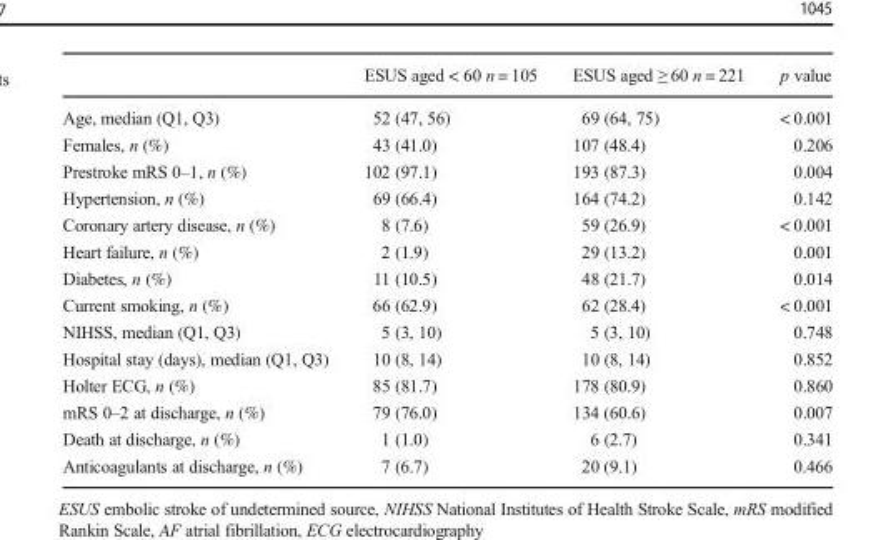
<table><thead><tr><td></td><td>ESUS aged &lt; 60 n = 105</td><td>ESUS aged ≥ 60 n = 221</td><td>p value</td></tr></thead><tbody><tr><td>Age, median (Q1, Q3)</td><td>52 (47, 56)</td><td>69 (64, 75)</td><td>&lt; 0.001</td></tr><tr><td>Females, n (%)</td><td>43 (41.0)</td><td>107 (48.4)</td><td>0.206</td></tr><tr><td>Prestroke mRS 0–1, n (%)</td><td>102 (97.1)</td><td>193 (87.3)</td><td>0.004</td></tr><tr><td>Hypertension, n (%)</td><td>69 (66.4)</td><td>164 (74.2)</td><td>0.142</td></tr><tr><td>Coronary artery disease, n (%)</td><td>8 (7.6)</td><td>59 (26.9)</td><td>&lt; 0.001</td></tr><tr><td>Heart failure, n (%)</td><td>2 (1.9)</td><td>29 (13.2)</td><td>0.001</td></tr><tr><td>Diabetes, n (%)</td><td>11 (10.5)</td><td>48 (21.7)</td><td>0.014</td></tr><tr><td>Current smoking, n (%)</td><td>66 (62.9)</td><td>62 (28.4)</td><td>&lt; 0.001</td></tr><tr><td>NIHSS, median (Q1, Q3)</td><td>5 (3, 10)</td><td>5 (3, 10)</td><td>0.748</td></tr><tr><td>Hospital stay (days), median (Q1, Q3)</td><td>10 (8, 14)</td><td>10 (8, 14)</td><td>0.852</td></tr><tr><td>Holter ECG, n (%)</td><td>85 (81.7)</td><td>178 (80.9)</td><td>0.860</td></tr><tr><td>mRS 0–2 at discharge, n (%)</td><td>79 (76.0)</td><td>134 (60.6)</td><td>0.007</td></tr><tr><td>Death at discharge, n (%)</td><td>1 (1.0)</td><td>6 (2.7)</td><td>0.341</td></tr><tr><td>Anticoagulants at discharge, n (%)</td><td>7 (6.7)</td><td>20 (9.1)</td><td>0.466</td></tr></tbody></table>